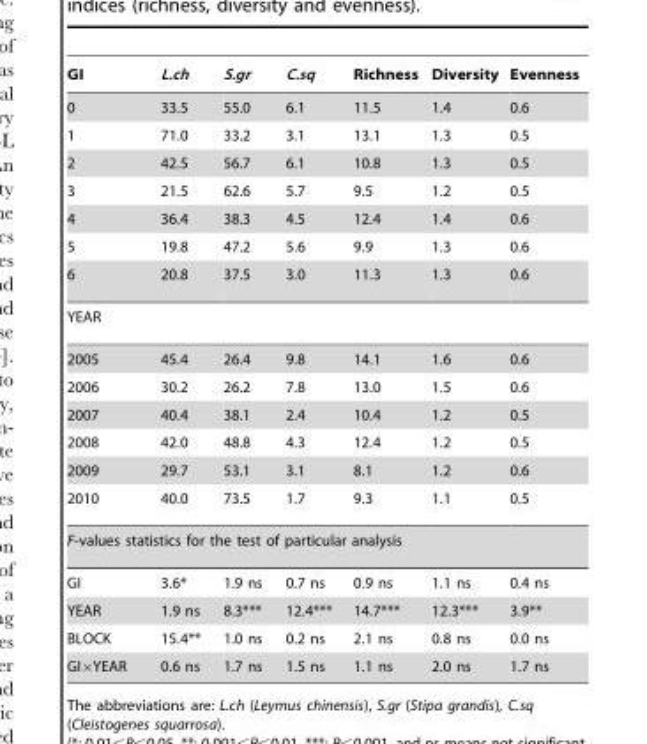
<table><thead><tr><td>GI</td><td>L.ch</td><td>S.gr</td><td>C.sq</td><td>Richness</td><td>Diversity</td><td>Evenness</td></tr></thead><tbody><tr><td>0</td><td>33.5</td><td>55.0</td><td>6.1</td><td>11.5</td><td>1.4</td><td>0.6</td></tr><tr><td>1</td><td>71.0</td><td>33.2</td><td>3.1</td><td>13.1</td><td>1.3</td><td>0.5</td></tr><tr><td>2</td><td>42.5</td><td>56.7</td><td>6.1</td><td>10.8</td><td>1.3</td><td>0.5</td></tr><tr><td>3</td><td>21.5</td><td>62.6</td><td>5.7</td><td>9.5</td><td>1.2</td><td>0.5</td></tr><tr><td>4</td><td>36.4</td><td>38.3</td><td>4.5</td><td>12.4</td><td>1.4</td><td>0.6</td></tr><tr><td>5</td><td>19.8</td><td>47.2</td><td>5.6</td><td>9.9</td><td>1.3</td><td>0.6</td></tr><tr><td>6</td><td>20.8</td><td>37.5</td><td>3.0</td><td>11.3</td><td>1.3</td><td>0.6</td></tr><tr><td colspan="7">YEAR</td></tr><tr><td>2005</td><td>45.4</td><td>26.4</td><td>9.8</td><td>14.1</td><td>1.6</td><td>0.6</td></tr><tr><td>2006</td><td>30.2</td><td>26.2</td><td>7.8</td><td>13.0</td><td>1.5</td><td>0.6</td></tr><tr><td>2007</td><td>40.4</td><td>38.1</td><td>2.4</td><td>10.4</td><td>1.2</td><td>0.5</td></tr><tr><td>2008</td><td>42.0</td><td>48.8</td><td>4.3</td><td>12.4</td><td>1.2</td><td>0.5</td></tr><tr><td>2009</td><td>29.7</td><td>53.1</td><td>3.1</td><td>8.1</td><td>1.2</td><td>0.6</td></tr><tr><td>2010</td><td>40.0</td><td>73.5</td><td>1.7</td><td>9.3</td><td>1.1</td><td>0.5</td></tr><tr><td colspan="7">F-values statistics for the test of particular analysis</td></tr><tr><td>GI</td><td>3.6*</td><td>1.9 ns</td><td>0.7 ns</td><td>0.9 ns</td><td>1.1 ns</td><td>0.4 ns</td></tr><tr><td>YEAR</td><td>1.9 ns</td><td>8.3***</td><td>12.4***</td><td>14.7***</td><td>12.3***</td><td>3.9**</td></tr><tr><td>BLOCK</td><td>15.4**</td><td>1.0 ns</td><td>0.2 ns</td><td>2.1 ns</td><td>0.8 ns</td><td>0.0 ns</td></tr><tr><td>GI×YEAR</td><td>0.6 ns</td><td>1.7 ns</td><td>1.5 ns</td><td>1.1 ns</td><td>2.0 ns</td><td>1.7 ns</td></tr></tbody></table>